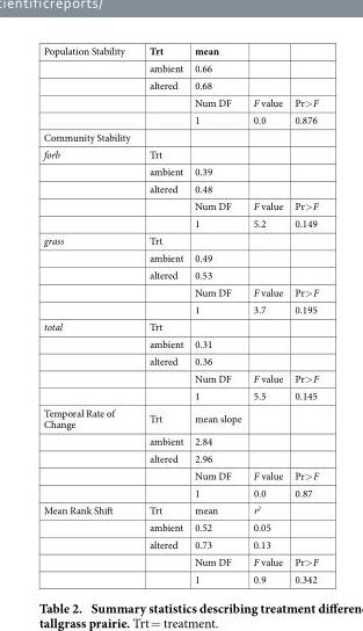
<table><tbody><tr><td rowspan="5">Population Stability</td><td>Trt</td><td>mean</td><td></td><td></td></tr><tr><td>ambient</td><td>0.66</td><td></td><td></td></tr><tr><td>altered</td><td>0.68</td><td></td><td></td></tr><tr><td></td><td>Num DF</td><td>F value</td><td>Pr&gt; F</td></tr><tr><td></td><td>1</td><td>0.0</td><td>0.876</td></tr><tr><td colspan="5">Community Stability</td></tr><tr><td rowspan="5">forb</td><td>Trt</td><td></td><td></td><td></td></tr><tr><td>ambient</td><td>0.39</td><td></td><td></td></tr><tr><td>altered</td><td>0.48</td><td></td><td></td></tr><tr><td></td><td>Num DF</td><td>F value</td><td>Pr&gt; F</td></tr><tr><td></td><td>1</td><td>5.2</td><td>0.149</td></tr><tr><td rowspan="5">grass</td><td>Trt</td><td></td><td></td><td></td></tr><tr><td>ambient</td><td>0.49</td><td></td><td></td></tr><tr><td>altered</td><td>0.53</td><td></td><td></td></tr><tr><td></td><td>Num DF</td><td>F value</td><td>Pr&gt; F</td></tr><tr><td></td><td>1</td><td>3.7</td><td>0.195</td></tr><tr><td rowspan="5">total</td><td>Trt</td><td></td><td></td><td></td></tr><tr><td>ambient</td><td>0.31</td><td></td><td></td></tr><tr><td>altered</td><td>0.36</td><td></td><td></td></tr><tr><td></td><td>Num DF</td><td>F value</td><td>Pr&gt; F</td></tr><tr><td></td><td>1</td><td>5.5</td><td>0.145</td></tr><tr><td rowspan="5">Temporal Rate of Change</td><td>Trt</td><td>mean slope</td><td></td><td></td></tr><tr><td>ambient</td><td>2.84</td><td></td><td></td></tr><tr><td>altered</td><td>2.96</td><td></td><td></td></tr><tr><td></td><td>Num DF</td><td>F value</td><td>Pr&gt; F</td></tr><tr><td></td><td>1</td><td>0.0</td><td>0.87</td></tr><tr><td rowspan="5">Mean Rank Shift</td><td>Trt</td><td>mean</td><td>r<sup>2</sup></td><td></td></tr><tr><td>ambient</td><td>0.52</td><td>0.05</td><td></td></tr><tr><td>altered</td><td>0.73</td><td>0.13</td><td></td></tr><tr><td></td><td>Num DF</td><td>F value</td><td>Pr&gt; F</td></tr><tr><td></td><td>1</td><td>0.9</td><td>0.342</td></tr></tbody></table>